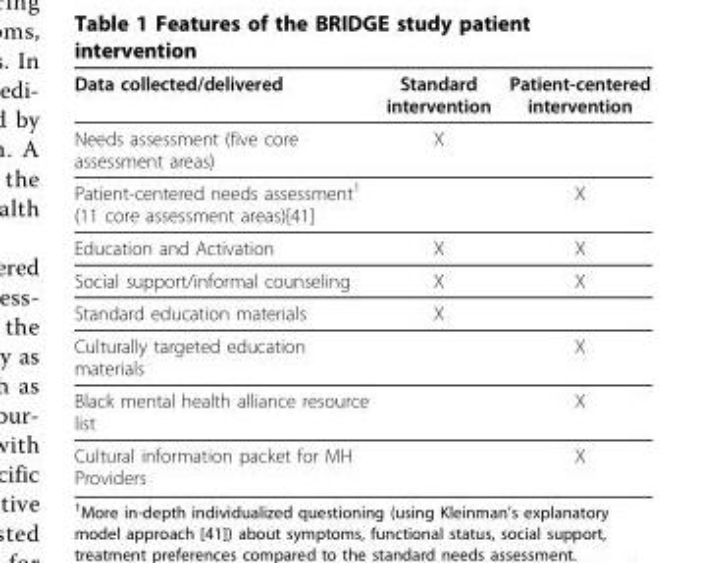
<table><thead><tr><td>Data collected/delivered</td><td>Standard intervention</td><td>Patient-centered intervention</td></tr></thead><tbody><tr><td>Needs assessment (five core assessment areas)</td><td>X</td><td></td></tr><tr><td>Patient-centered needs assessment1 (11 core assessment areas)[41]</td><td></td><td>X</td></tr><tr><td>Education and Activation</td><td>X</td><td>X</td></tr><tr><td>Social support/informal counseling</td><td>X</td><td>X</td></tr><tr><td>Standard education materials</td><td>X</td><td></td></tr><tr><td>Culturally targeted education materials</td><td></td><td>X</td></tr><tr><td>Black mental health alliance resource list</td><td></td><td>X</td></tr><tr><td>Cultural information packet for MH Providers</td><td></td><td>X</td></tr></tbody></table>